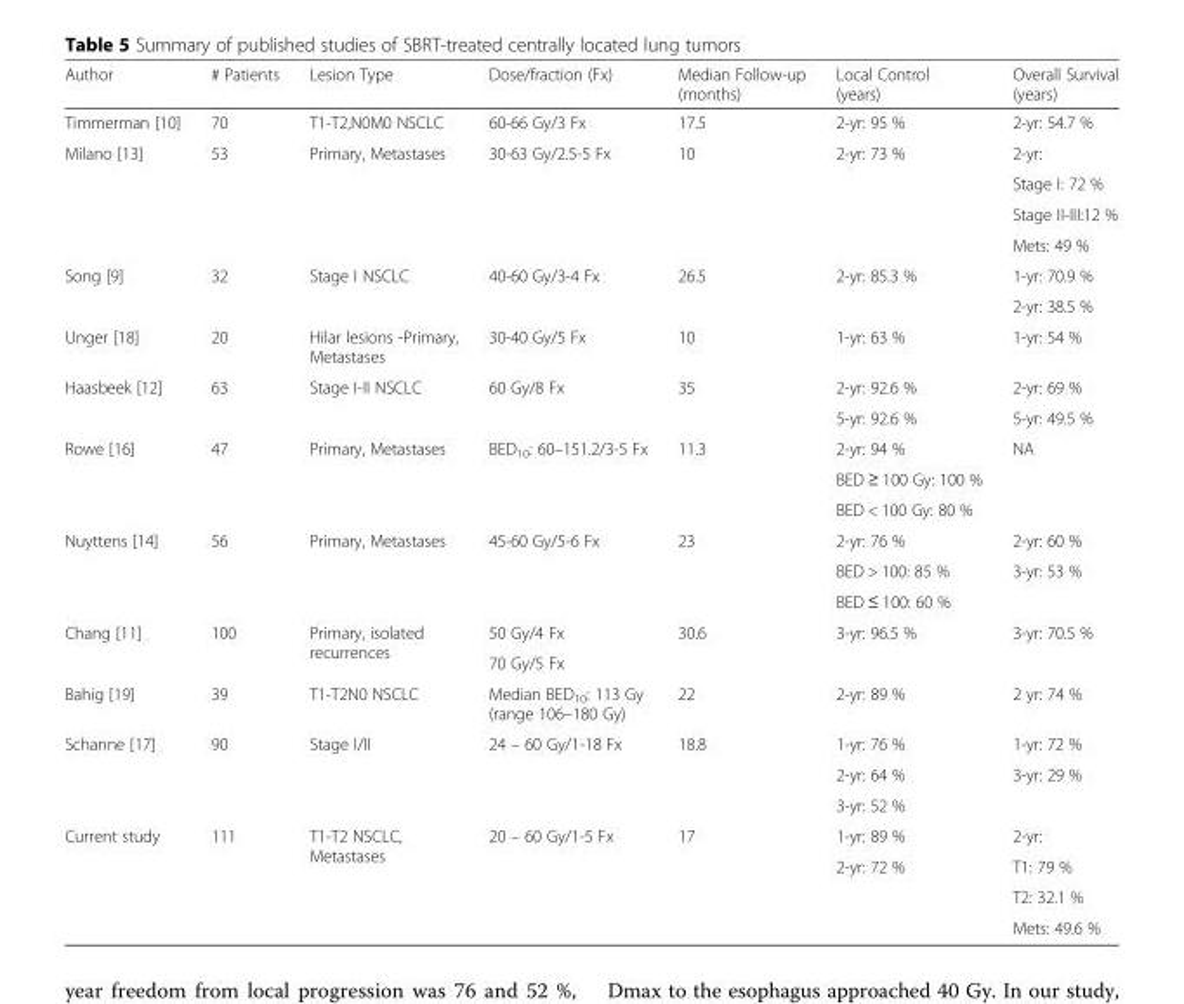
<table><thead><tr><td>Author</td><td># Patients</td><td>Lesion Type</td><td>Dose/fraction (Fx)</td><td>Median Follow-up (months)</td><td>Local Control (years)</td><td>Overall Survival (years)</td></tr></thead><tbody><tr><td>Timmerman [10]</td><td>70</td><td>T1-T2,N0M0 NSCLC</td><td>60-66 Gy/3 Fx</td><td>17.5</td><td>2-yr: 95 %</td><td>2-yr: 54.7 %</td></tr><tr><td rowspan="4">Milano [13]</td><td rowspan="4">53</td><td rowspan="4">Primary, Metastases</td><td rowspan="4">30-63 Gy/2.5-5 Fx</td><td rowspan="4">10</td><td rowspan="4">2-yr: 73 %</td><td>2-yr:</td></tr><tr><td>Stage I: 72 %</td></tr><tr><td>Stage II-III:12 %</td></tr><tr><td>Mets: 49 %</td></tr><tr><td rowspan="2">Song [9]</td><td rowspan="2">32</td><td rowspan="2">Stage I NSCLC</td><td rowspan="2">40-60 Gy/3-4 Fx</td><td rowspan="2">26.5</td><td rowspan="2">2-yr: 85.3 %</td><td>1-yr: 70.9 %</td></tr><tr><td>2-yr: 38.5 %</td></tr><tr><td>Unger [18]</td><td>20</td><td>Hilar lesions -Primary, Metastases</td><td>30-40 Gy/5 Fx</td><td>10</td><td>1-yr: 63 %</td><td>1-yr: 54 %</td></tr><tr><td rowspan="2">Haasbeek [12]</td><td rowspan="2">63</td><td rowspan="2">Stage I-II NSCLC</td><td rowspan="2">60 Gy/8 Fx</td><td rowspan="2">35</td><td>2-yr: 92.6 %</td><td>2-yr: 69 %</td></tr><tr><td>5-yr: 92.6 %</td><td>5-yr: 49.5 %</td></tr><tr><td rowspan="3">Rowe [16]</td><td rowspan="3">47</td><td rowspan="3">Primary, Metastases</td><td rowspan="3">BED<sub>10</sub>: 60–151.2/3-5 Fx</td><td rowspan="3">11.3</td><td>2-yr: 94 %</td><td rowspan="3">NA</td></tr><tr><td>BED ≥ 100 Gy: 100 %</td></tr><tr><td>BED &lt; 100 Gy: 80 %</td></tr><tr><td rowspan="3">Nuyttens [14]</td><td rowspan="3">56</td><td rowspan="3">Primary, Metastases</td><td rowspan="3">45-60 Gy/5-6 Fx</td><td rowspan="3">23</td><td>2-yr: 76 %</td><td>2-yr: 60 %</td></tr><tr><td>BED &gt; 100: 85 %</td><td rowspan="2">3-yr: 53 %</td></tr><tr><td>BED ≤ 100: 60 %</td></tr><tr><td rowspan="2">Chang [11]</td><td rowspan="2">100</td><td rowspan="2">Primary, isolated recurrences</td><td>50 Gy/4 Fx</td><td rowspan="2">30.6</td><td rowspan="2">3-yr: 96.5 %</td><td rowspan="2">3-yr: 70.5 %</td></tr><tr><td>70 Gy/5 Fx</td></tr><tr><td>Bahig [19]</td><td>39</td><td>T1-T2N0 NSCLC</td><td>Median BED<sub>10</sub>: 113 Gy (range 106–180 Gy)</td><td>22</td><td>2-yr: 89 %</td><td>2 yr: 74 %</td></tr><tr><td rowspan="3">Schanne [17]</td><td rowspan="3">90</td><td rowspan="3">Stage I/II</td><td rowspan="3">24 – 60 Gy/1-18 Fx</td><td rowspan="3">18.8</td><td>1-yr: 76 %</td><td>1-yr: 72 %</td></tr><tr><td>2-yr: 64 %</td><td rowspan="2">3-yr: 29 %</td></tr><tr><td>3-yr: 52 %</td></tr><tr><td rowspan="4">Current study</td><td rowspan="4">111</td><td rowspan="4">T1-T2 NSCLC, Metastases</td><td rowspan="4">20 – 60 Gy/1-5 Fx</td><td rowspan="4">17</td><td>1-yr: 89 %</td><td>2-yr:</td></tr><tr><td rowspan="3">2-yr: 72 %</td><td>T1: 79 %</td></tr><tr><td>T2: 32.1 %</td></tr><tr><td>Mets: 49.6 %</td></tr></tbody></table>